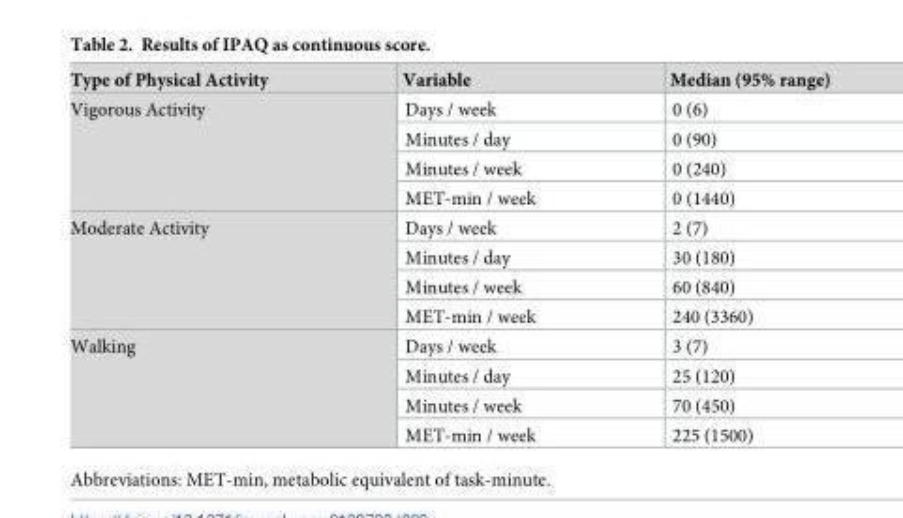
<table><thead><tr><td>Type of Physical Activity</td><td>Variable</td><td>Median (95% range)</td></tr></thead><tbody><tr><td rowspan="4">Vigorous Activity</td><td>Days / week</td><td>0 (6)</td></tr><tr><td>Minutes / day</td><td>0 (90)</td></tr><tr><td>Minutes / week</td><td>0 (240)</td></tr><tr><td>MET-min / week</td><td>0 (1440)</td></tr><tr><td rowspan="4">Moderate Activity</td><td>Days / week</td><td>2 (7)</td></tr><tr><td>Minutes / day</td><td>30 (180)</td></tr><tr><td>Minutes / week</td><td>60 (840)</td></tr><tr><td>MET-min / week</td><td>240 (3360)</td></tr><tr><td rowspan="4">Walking</td><td>Days / week</td><td>3 (7)</td></tr><tr><td>Minutes / day</td><td>25 (120)</td></tr><tr><td>Minutes / week</td><td>70 (450)</td></tr><tr><td>MET-min / week</td><td>225 (1500)</td></tr></tbody></table>